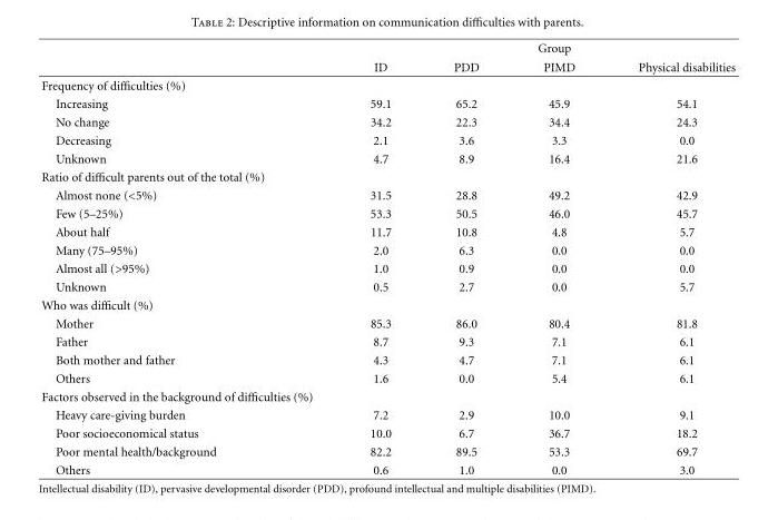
<table><thead><tr><td rowspan="2"></td><td colspan="4">Group</td></tr><tr><td>ID</td><td>PDD</td><td>PIMD</td><td>Physical disabilities</td></tr></thead><tbody><tr><td colspan="5">Frequency of difficulties (%)</td></tr><tr><td>Increasing</td><td>59.1</td><td>65.2</td><td>45.9</td><td>54.1</td></tr><tr><td>No change</td><td>34.2</td><td>22.3</td><td>34.4</td><td>24.3</td></tr><tr><td>Decreasing</td><td>2.1</td><td>3.6</td><td>3.3</td><td>0.0</td></tr><tr><td>Unknown</td><td>4.7</td><td>8.9</td><td>16.4</td><td>21.6</td></tr><tr><td colspan="5">Ratio of difficult parents out of the total (%)</td></tr><tr><td>Almost none (&lt;5%)</td><td>31.5</td><td>28.8</td><td>49.2</td><td>42.9</td></tr><tr><td>Few (5–25%)</td><td>53.3</td><td>50.5</td><td>46.0</td><td>45.7</td></tr><tr><td>About half</td><td>11.7</td><td>10.8</td><td>4.8</td><td>5.7</td></tr><tr><td>Many (75–95%)</td><td>2.0</td><td>6.3</td><td>0.0</td><td>0.0</td></tr><tr><td>Almost all (&gt;95%)</td><td>1.0</td><td>0.9</td><td>0.0</td><td>0.0</td></tr><tr><td>Unknown</td><td>0.5</td><td>2.7</td><td>0.0</td><td>5.7</td></tr><tr><td colspan="5">Who was difficult (%)</td></tr><tr><td>Mother</td><td>85.3</td><td>86.0</td><td>80.4</td><td>81.8</td></tr><tr><td>Father</td><td>8.7</td><td>9.3</td><td>7.1</td><td>6.1</td></tr><tr><td>Both mother and father</td><td>4.3</td><td>4.7</td><td>7.1</td><td>6.1</td></tr><tr><td>Others</td><td>1.6</td><td>0.0</td><td>5.4</td><td>6.1</td></tr><tr><td colspan="5">Factors observed in the background of difficulties (%)</td></tr><tr><td>Heavy care-giving burden</td><td>7.2</td><td>2.9</td><td>10.0</td><td>9.1</td></tr><tr><td>Poor socioeconomical status</td><td>10.0</td><td>6.7</td><td>36.7</td><td>18.2</td></tr><tr><td>Poor mental health/background</td><td>82.2</td><td>89.5</td><td>53.3</td><td>69.7</td></tr><tr><td>Others</td><td>0.6</td><td>1.0</td><td>0.0</td><td>3.0</td></tr></tbody></table>